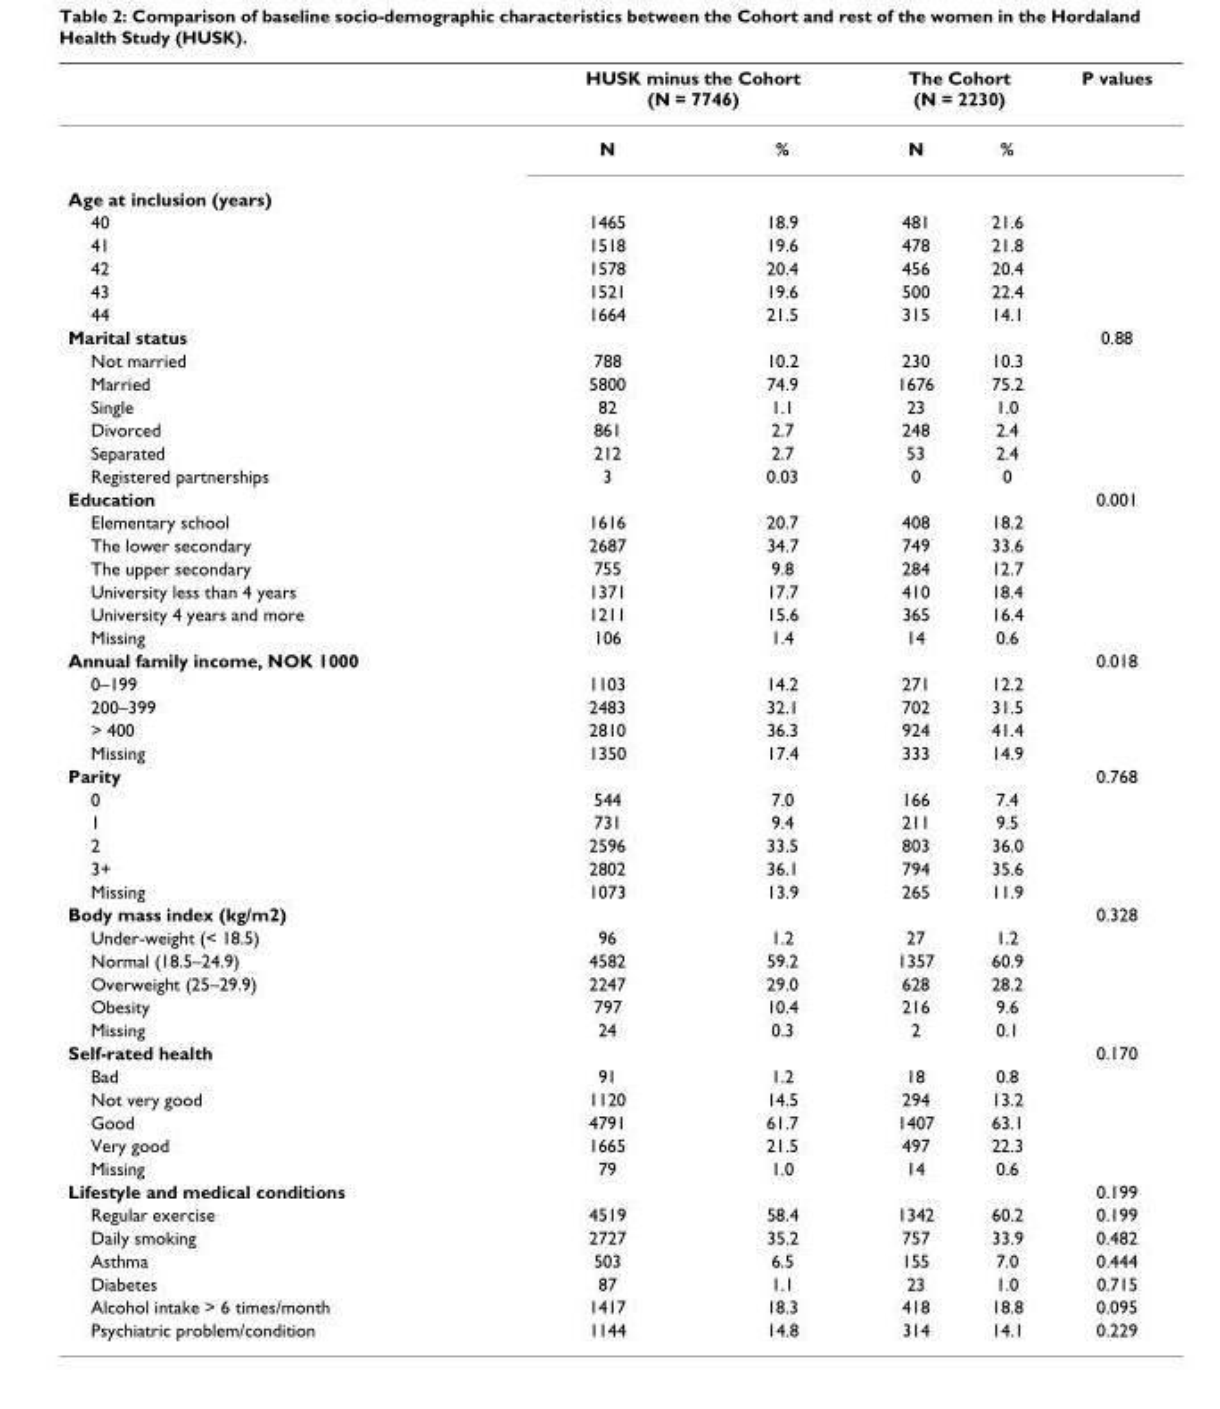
<table><thead><tr><td rowspan="2"></td><td colspan="2">HUSK minus the Cohort (N = 7746)</td><td colspan="2">The Cohort (N = 2230)</td><td rowspan="2">P values</td></tr><tr><td>N</td><td>%</td><td>N</td><td>%</td></tr></thead><tbody><tr><td colspan="6">Age at inclusion (years)</td></tr><tr><td>40</td><td>1465</td><td>18.9</td><td>481</td><td>21.6</td><td></td></tr><tr><td>41</td><td>1518</td><td>19.6</td><td>478</td><td>21.8</td><td></td></tr><tr><td>42</td><td>1578</td><td>20.4</td><td>456</td><td>20.4</td><td></td></tr><tr><td>43</td><td>1521</td><td>19.6</td><td>500</td><td>22.4</td><td></td></tr><tr><td>44</td><td>1664</td><td>21.5</td><td>315</td><td>14.1</td><td></td></tr><tr><td>Marital status</td><td></td><td></td><td></td><td></td><td>0.88</td></tr><tr><td>Not married</td><td>788</td><td>10.2</td><td>230</td><td>10.3</td><td></td></tr><tr><td>Married</td><td>5800</td><td>74.9</td><td>1676</td><td>75.2</td><td></td></tr><tr><td>Single</td><td>82</td><td>1.1</td><td>23</td><td>1.0</td><td></td></tr><tr><td>Divorced</td><td>861</td><td>2.7</td><td>248</td><td>2.4</td><td></td></tr><tr><td>Separated</td><td>212</td><td>2.7</td><td>53</td><td>2.4</td><td></td></tr><tr><td>Registered partnerships</td><td>3</td><td>0.03</td><td>0</td><td>0</td><td></td></tr><tr><td>Education</td><td></td><td></td><td></td><td></td><td>0.001</td></tr><tr><td>Elementary school</td><td>1616</td><td>20.7</td><td>408</td><td>18.2</td><td></td></tr><tr><td>The lower secondary</td><td>2687</td><td>34.7</td><td>749</td><td>33.6</td><td></td></tr><tr><td>The upper secondary</td><td>755</td><td>9.8</td><td>284</td><td>12.7</td><td></td></tr><tr><td>University less than 4 years</td><td>1371</td><td>17.7</td><td>410</td><td>18.4</td><td></td></tr><tr><td>University 4 years and more</td><td>1211</td><td>15.6</td><td>365</td><td>16.4</td><td></td></tr><tr><td>Missing</td><td>106</td><td>1.4</td><td>14</td><td>0.6</td><td></td></tr><tr><td>Annual family income, NOK 1000</td><td></td><td></td><td></td><td></td><td>0.018</td></tr><tr><td>0–199</td><td>1103</td><td>14.2</td><td>271</td><td>12.2</td><td></td></tr><tr><td>200–399</td><td>2483</td><td>32.1</td><td>702</td><td>31.5</td><td></td></tr><tr><td>&gt; 400</td><td>2810</td><td>36.3</td><td>924</td><td>41.4</td><td></td></tr><tr><td>Missing</td><td>1350</td><td>17.4</td><td>333</td><td>14.9</td><td></td></tr><tr><td>Parity</td><td></td><td></td><td></td><td></td><td>0.768</td></tr><tr><td>0</td><td>544</td><td>7.0</td><td>166</td><td>7.4</td><td></td></tr><tr><td>1</td><td>731</td><td>9.4</td><td>211</td><td>9.5</td><td></td></tr><tr><td>2</td><td>2596</td><td>33.5</td><td>803</td><td>36.0</td><td></td></tr><tr><td>3+</td><td>2802</td><td>36.1</td><td>794</td><td>35.6</td><td></td></tr><tr><td>Missing</td><td>1073</td><td>13.9</td><td>265</td><td>11.9</td><td></td></tr><tr><td>Body mass index (kg/m2)</td><td></td><td></td><td></td><td></td><td>0.328</td></tr><tr><td>Under-weight (&lt; 18.5)</td><td>96</td><td>1.2</td><td>27</td><td>1.2</td><td></td></tr><tr><td>Normal (18.5–24.9)</td><td>4582</td><td>59.2</td><td>1357</td><td>60.9</td><td></td></tr><tr><td>Overweight (25–29.9)</td><td>2247</td><td>29.0</td><td>628</td><td>28.2</td><td></td></tr><tr><td>Obesity</td><td>797</td><td>10.4</td><td>216</td><td>9.6</td><td></td></tr><tr><td>Missing</td><td>24</td><td>0.3</td><td>2</td><td>0.1</td><td></td></tr><tr><td>Self-rated health</td><td></td><td></td><td></td><td></td><td>0.170</td></tr><tr><td>Bad</td><td>91</td><td>1.2</td><td>18</td><td>0.8</td><td></td></tr><tr><td>Not very good</td><td>1120</td><td>14.5</td><td>294</td><td>13.2</td><td></td></tr><tr><td>Good</td><td>4791</td><td>61.7</td><td>1407</td><td>63.1</td><td></td></tr><tr><td>Very good</td><td>1665</td><td>21.5</td><td>497</td><td>22.3</td><td></td></tr><tr><td>Missing</td><td>79</td><td>1.0</td><td>14</td><td>0.6</td><td></td></tr><tr><td>Lifestyle and medical conditions</td><td></td><td></td><td></td><td></td><td>0.199</td></tr><tr><td>Regular exercise</td><td>4519</td><td>58.4</td><td>1342</td><td>60.2</td><td>0.199</td></tr><tr><td>Daily smoking</td><td>2727</td><td>35.2</td><td>757</td><td>33.9</td><td>0.482</td></tr><tr><td>Asthma</td><td>503</td><td>6.5</td><td>155</td><td>7.0</td><td>0.444</td></tr><tr><td>Diabetes</td><td>87</td><td>1.1</td><td>23</td><td>1.0</td><td>0.715</td></tr><tr><td>Alcohol intake &gt; 6 times/month</td><td>1417</td><td>18.3</td><td>418</td><td>18.8</td><td>0.095</td></tr><tr><td>Psychiatric problem/condition</td><td>1144</td><td>14.8</td><td>314</td><td>14.1</td><td>0.229</td></tr></tbody></table>